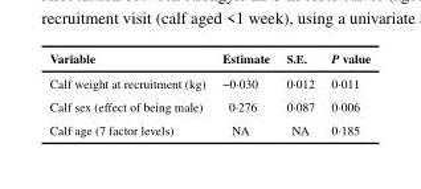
<table><thead><tr><td>Variable</td><td>Estimate</td><td>S.E.</td><td>P value</td></tr></thead><tbody><tr><td>Calf weight at recruitment (kg)</td><td>−0·030</td><td>0·012</td><td>0·011</td></tr><tr><td>Calf sex (effect of being male)</td><td>0·276</td><td>0·087</td><td>0·006</td></tr><tr><td>Calf age (7 factor levels)</td><td>NA</td><td>NA</td><td>0·185</td></tr></tbody></table>